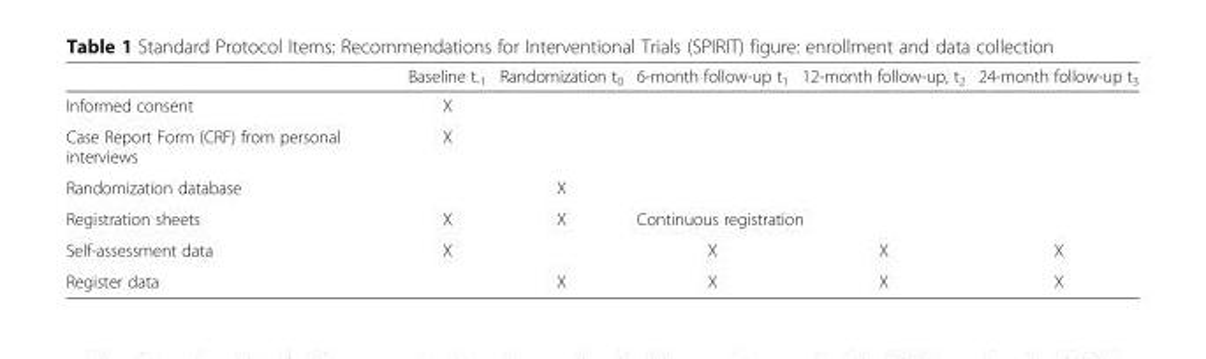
<table><thead><tr><td></td><td>Baseline t<sub>-1</sub></td><td>Randomization t<sub>0</sub></td><td>6-month follow-up t<sub>1</sub></td><td>12-month follow-up, t<sub>2</sub></td><td>24-month follow-up t<sub>3</sub></td></tr></thead><tbody><tr><td>Informed consent</td><td>X</td><td></td><td></td><td></td><td></td></tr><tr><td>Case Report Form (CRF) from personal interviews</td><td>X</td><td></td><td></td><td></td><td></td></tr><tr><td>Randomization database</td><td></td><td>X</td><td></td><td></td><td></td></tr><tr><td>Registration sheets</td><td>X</td><td>X</td><td colspan="3">Continuous registration</td></tr><tr><td>Self-assessment data</td><td>X</td><td></td><td>X</td><td>X</td><td>X</td></tr><tr><td>Register data</td><td></td><td>X</td><td>X</td><td>X</td><td>X</td></tr></tbody></table>